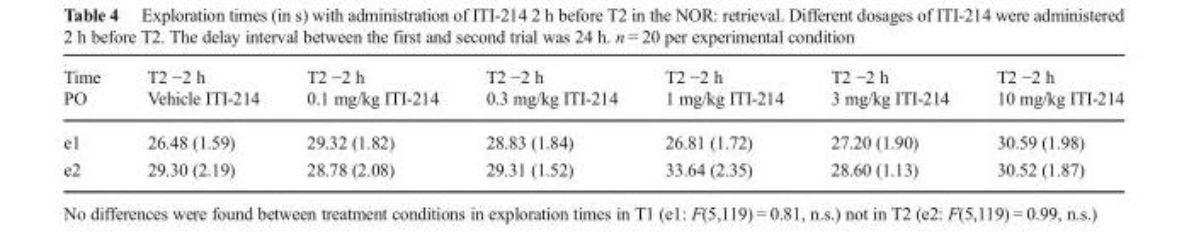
<table><thead><tr><td>Time PO</td><td>T2 −2 h Vehicle ITI-214</td><td>T2 −2 h 0.1 mg/kg ITI-214</td><td>T2 −2 h 0.3 mg/kg ITI-214</td><td>T2 −2 h 1 mg/kg ITI-214</td><td>T2 −2 h 3 mg/kg ITI-214</td><td>T2 −2 h 10 mg/kg ITI-214</td></tr></thead><tbody><tr><td>e1</td><td>26.48 (1.59)</td><td>29.32 (1.82)</td><td>28.83 (1.84)</td><td>26.81 (1.72)</td><td>27.20 (1.90)</td><td>30.59 (1.98)</td></tr><tr><td>e2</td><td>29.30 (2.19)</td><td>28.78 (2.08)</td><td>29.31 (1.52)</td><td>33.64 (2.35)</td><td>28.60 (1.13)</td><td>30.52 (1.87)</td></tr></tbody></table>